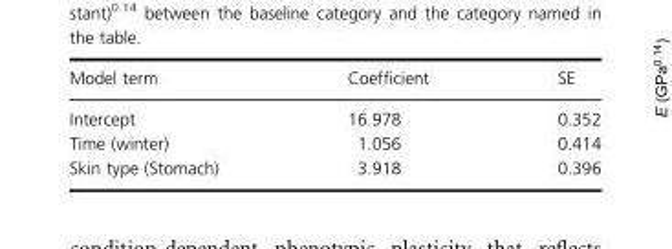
<table><thead><tr><td>Model term</td><td>Coefficient</td><td>SE</td></tr></thead><tbody><tr><td>Intercept</td><td>16.978</td><td>0.352</td></tr><tr><td>Time (winter)</td><td>1.056</td><td>0.414</td></tr><tr><td>Skin type (Stomach)</td><td>3.918</td><td>0.396</td></tr></tbody></table>